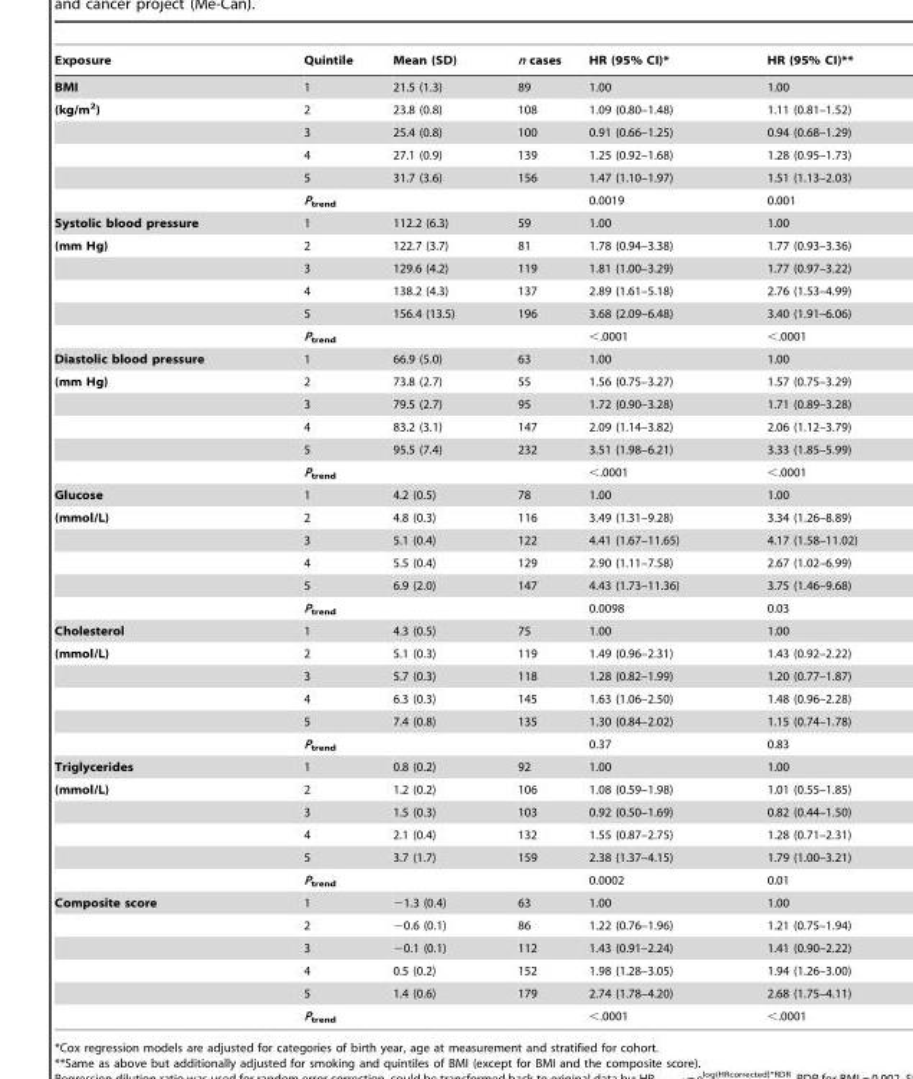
<table><thead><tr><td>Exposure</td><td>Quintile</td><td>Mean (SD)</td><td>n cases</td><td>HR (95% CI)*</td><td>HR (95% CI)**</td></tr></thead><tbody><tr><td>BMI</td><td>1</td><td>21.5 (1.3)</td><td>89</td><td>1.00</td><td>1.00</td></tr><tr><td rowspan="5">(kg/m<sup>2</sup>)</td><td>2</td><td>23.8 (0.8)</td><td>108</td><td>1.09 (0.80–1.48)</td><td>1.11 (0.81–1.52)</td></tr><tr><td>3</td><td>25.4 (0.8)</td><td>100</td><td>0.91 (0.66–1.25)</td><td>0.94 (0.68–1.29)</td></tr><tr><td>4</td><td>27.1 (0.9)</td><td>139</td><td>1.25 (0.92–1.68)</td><td>1.28 (0.95–1.73)</td></tr><tr><td>5</td><td>31.7 (3.6)</td><td>156</td><td>1.47 (1.10–1.97)</td><td>1.51 (1.13–2.03)</td></tr><tr><td>P<sub>trend</sub></td><td></td><td></td><td>0.0019</td><td>0.001</td></tr><tr><td>Systolic blood pressure</td><td>1</td><td>112.2 (6.3)</td><td>59</td><td>1.00</td><td>1.00</td></tr><tr><td rowspan="5">(mm Hg)</td><td>2</td><td>122.7 (3.7)</td><td>81</td><td>1.78 (0.94–3.38)</td><td>1.77 (0.93–3.36)</td></tr><tr><td>3</td><td>129.6 (4.2)</td><td>119</td><td>1.81 (1.00–3.29)</td><td>1.77 (0.97–3.22)</td></tr><tr><td>4</td><td>138.2 (4.3)</td><td>137</td><td>2.89 (1.61–5.18)</td><td>2.76 (1.53–4.99)</td></tr><tr><td>5</td><td>156.4 (13.5)</td><td>196</td><td>3.68 (2.09–6.48)</td><td>3.40 (1.91–6.06)</td></tr><tr><td>P<sub>trend</sub></td><td></td><td></td><td>&lt;.0001</td><td>&lt;.0001</td></tr><tr><td>Diastolic blood pressure</td><td>1</td><td>66.9 (5.0)</td><td>63</td><td>1.00</td><td>1.00</td></tr><tr><td rowspan="5">(mm Hg)</td><td>2</td><td>73.8 (2.7)</td><td>55</td><td>1.56 (0.75–3.27)</td><td>1.57 (0.75–3.29)</td></tr><tr><td>3</td><td>79.5 (2.7)</td><td>95</td><td>1.72 (0.90–3.28)</td><td>1.71 (0.89–3.28)</td></tr><tr><td>4</td><td>83.2 (3.1)</td><td>147</td><td>2.09 (1.14–3.82)</td><td>2.06 (1.12–3.79)</td></tr><tr><td>5</td><td>95.5 (7.4)</td><td>232</td><td>3.51 (1.98–6.21)</td><td>3.33 (1.85–5.99)</td></tr><tr><td>P<sub>trend</sub></td><td></td><td></td><td>&lt;.0001</td><td>&lt;.0001</td></tr><tr><td>Glucose</td><td>1</td><td>4.2 (0.5)</td><td>78</td><td>1.00</td><td>1.00</td></tr><tr><td rowspan="5">(mmol/L)</td><td>2</td><td>4.8 (0.3)</td><td>116</td><td>3.49 (1.31–9.28)</td><td>3.34 (1.26–8.89)</td></tr><tr><td>3</td><td>5.1 (0.4)</td><td>122</td><td>4.41 (1.67–11.65)</td><td>4.17 (1.58–11.02)</td></tr><tr><td>4</td><td>5.5 (0.4)</td><td>129</td><td>2.90 (1.11–7.58)</td><td>2.67 (1.02–6.99)</td></tr><tr><td>5</td><td>6.9 (2.0)</td><td>147</td><td>4.43 (1.73–11.36)</td><td>3.75 (1.46–9.68)</td></tr><tr><td>P<sub>trend</sub></td><td></td><td></td><td>0.0098</td><td>0.03</td></tr><tr><td>Cholesterol</td><td>1</td><td>4.3 (0.5)</td><td>75</td><td>1.00</td><td>1.00</td></tr><tr><td rowspan="5">(mmol/L)</td><td>2</td><td>5.1 (0.3)</td><td>119</td><td>1.49 (0.96–2.31)</td><td>1.43 (0.92–2.22)</td></tr><tr><td>3</td><td>5.7 (0.3)</td><td>118</td><td>1.28 (0.82–1.99)</td><td>1.20 (0.77–1.87)</td></tr><tr><td>4</td><td>6.3 (0.3)</td><td>145</td><td>1.63 (1.06–2.50)</td><td>1.48 (0.96–2.28)</td></tr><tr><td>5</td><td>7.4 (0.8)</td><td>135</td><td>1.30 (0.84–2.02)</td><td>1.15 (0.74–1.78)</td></tr><tr><td>P<sub>trend</sub></td><td></td><td></td><td>0.37</td><td>0.83</td></tr><tr><td>Triglycerides</td><td>1</td><td>0.8 (0.2)</td><td>92</td><td>1.00</td><td>1.00</td></tr><tr><td rowspan="5">(mmol/L)</td><td>2</td><td>1.2 (0.2)</td><td>106</td><td>1.08 (0.59–1.98)</td><td>1.01 (0.55–1.85)</td></tr><tr><td>3</td><td>1.5 (0.3)</td><td>103</td><td>0.92 (0.50–1.69)</td><td>0.82 (0.44–1.50)</td></tr><tr><td>4</td><td>2.1 (0.4)</td><td>132</td><td>1.55 (0.87–2.75)</td><td>1.28 (0.71–2.31)</td></tr><tr><td>5</td><td>3.7 (1.7)</td><td>159</td><td>2.38 (1.37–4.15)</td><td>1.79 (1.00–3.21)</td></tr><tr><td>P<sub>trend</sub></td><td></td><td></td><td>0.0002</td><td>0.01</td></tr><tr><td rowspan="6">Composite score</td><td>1</td><td>−1.3 (0.4)</td><td>63</td><td>1.00</td><td>1.00</td></tr><tr><td>2</td><td>−0.6 (0.1)</td><td>86</td><td>1.22 (0.76–1.96)</td><td>1.21 (0.75–1.94)</td></tr><tr><td>3</td><td>−0.1 (0.1)</td><td>112</td><td>1.43 (0.91–2.24)</td><td>1.41 (0.90–2.22)</td></tr><tr><td>4</td><td>0.5 (0.2)</td><td>152</td><td>1.98 (1.28–3.05)</td><td>1.94 (1.26–3.00)</td></tr><tr><td>5</td><td>1.4 (0.6)</td><td>179</td><td>2.74 (1.78–4.20)</td><td>2.68 (1.75–4.11)</td></tr><tr><td>P<sub>trend</sub></td><td></td><td></td><td>&lt;.0001</td><td>&lt;.0001</td></tr></tbody></table>